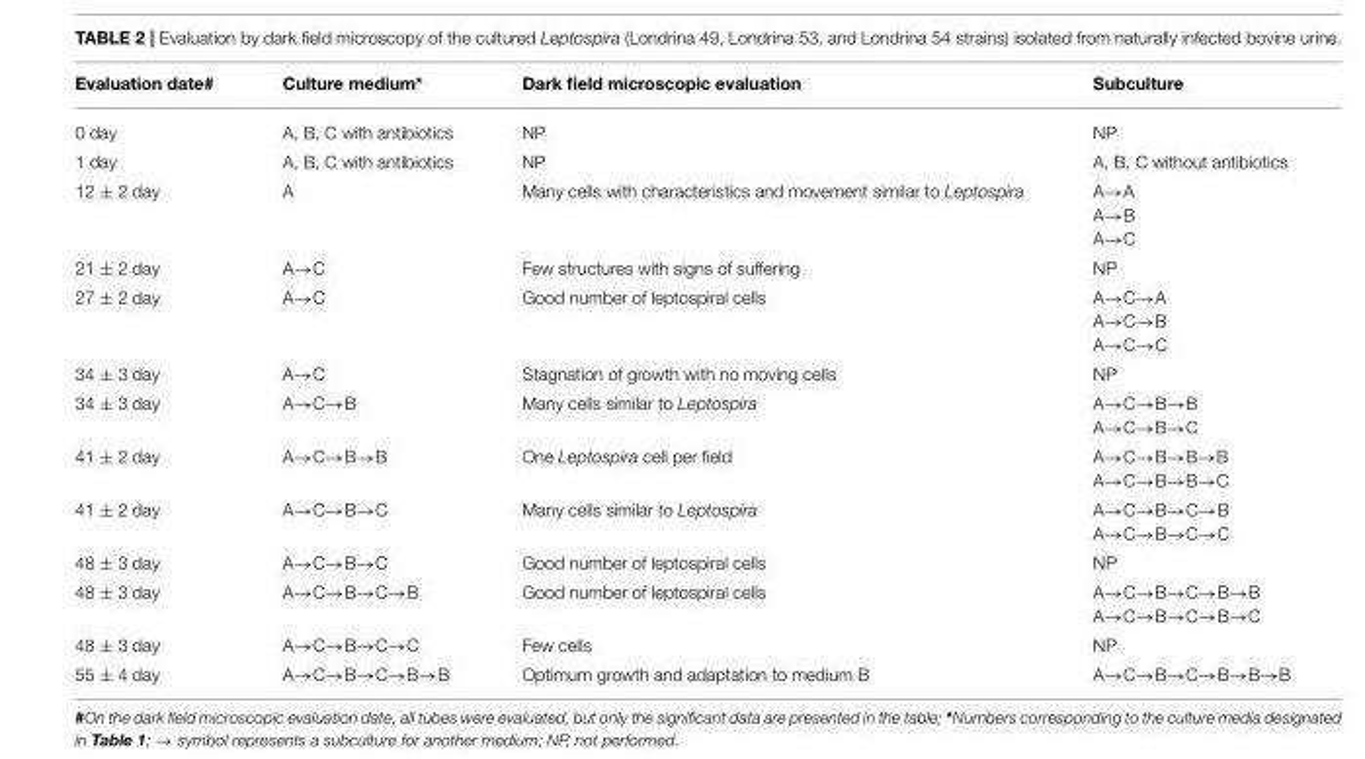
<table><thead><tr><td>Evaluation date#</td><td>Culture medium*</td><td>Dark field microscopic evaluation</td><td>Subculture</td></tr></thead><tbody><tr><td>0 day</td><td>A, B, C with antibiotics</td><td>NP</td><td>NP</td></tr><tr><td>1 day</td><td>A, B, C with antibiotics</td><td>NP</td><td>A, B, C without antibiotics</td></tr><tr><td>12 ± 2 day</td><td>A</td><td>Many cells with characteristics and movement similar to Leptospira</td><td>A→A A→B A→C</td></tr><tr><td>21 ± 2 day</td><td>A→C</td><td>Few structures with signs of suffering</td><td>NP</td></tr><tr><td>27 ± 2 day</td><td>A→C</td><td>Good number of leptospiral cells</td><td>A→C→A A→C→B A→C→C</td></tr><tr><td>34 ± 3 day</td><td>A→C</td><td>Stagnation of growth with no moving cells</td><td>NP</td></tr><tr><td>34 ± 3 day</td><td>A→C→B</td><td>Many cells similar to Leptospira</td><td>A→C→B→B A→C→B→C</td></tr><tr><td>41 ± 2 day</td><td>A→C→B→B</td><td>One Leptospira cell per field</td><td>A→C→B→B→B A→C→B→B→C</td></tr><tr><td>41 ± 2 day</td><td>A→C→B→C</td><td>Many cells similar to Leptospira</td><td>A→C→B→C→B A→C→B→C→C</td></tr><tr><td>48 ± 3 day</td><td>A→C→B→C</td><td>Good number of leptospiral cells</td><td>NP</td></tr><tr><td>48 ± 3 day</td><td>A→C→B→C→B</td><td>Good number of leptospiral cells</td><td>A→C→B→C→B→B A→C→B→C→B→C</td></tr><tr><td>48 ± 3 day</td><td>A→C→B→C→C</td><td>Few cells</td><td>NP</td></tr><tr><td>55 ± 4 day</td><td>A→C→B→C→B→B</td><td>Optimum growth and adaptation to medium B</td><td>A→C→B→C→B→B→B</td></tr></tbody></table>